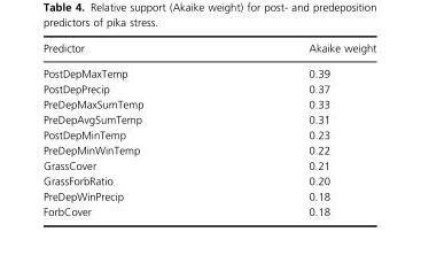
<table><thead><tr><td>Predictor</td><td>Akaike weight</td></tr></thead><tbody><tr><td>PostDepMaxTemp</td><td>0.39</td></tr><tr><td>PostDepPrecip</td><td>0.37</td></tr><tr><td>PreDepMaxSumTemp</td><td>0.33</td></tr><tr><td>PreDepAvgSumTemp</td><td>0.31</td></tr><tr><td>PostDepMinTemp</td><td>0.23</td></tr><tr><td>PreDepMinWinTemp</td><td>0.22</td></tr><tr><td>GrassCover</td><td>0.21</td></tr><tr><td>GrassForbRatio</td><td>0.20</td></tr><tr><td>PreDepWinPrecip</td><td>0.18</td></tr><tr><td>ForbCover</td><td>0.18</td></tr></tbody></table>